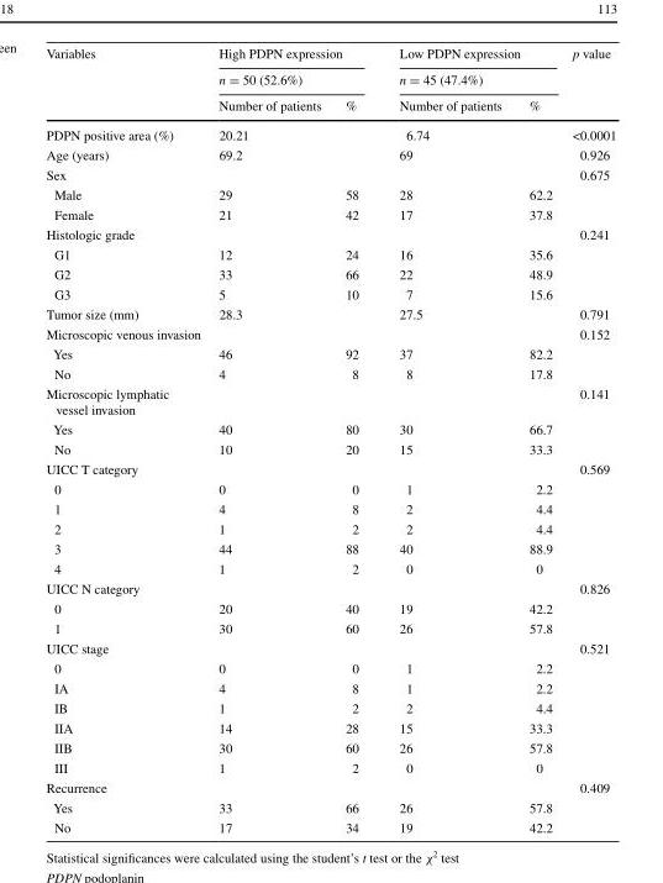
<table><thead><tr><td rowspan="3">Variables</td><td rowspan="2" colspan="2">High PDPN expression n = 50 (52.6%)</td><td rowspan="2" colspan="2">Low PDPN expression n = 45 (47.4%)</td><td rowspan="3">p value</td></tr><tr></tr><tr><td>Number of patients</td><td>%</td><td>Number of patients</td><td>%</td></tr></thead><tbody><tr><td>PDPN positive area (%)</td><td>20.21</td><td></td><td>6.74</td><td></td><td>&lt;0.0001</td></tr><tr><td>Age (years)</td><td>69.2</td><td></td><td>69</td><td></td><td>0.926</td></tr><tr><td>Sex</td><td></td><td></td><td></td><td></td><td>0.675</td></tr><tr><td>Male</td><td>29</td><td>58</td><td>28</td><td>62.2</td><td></td></tr><tr><td>Female</td><td>21</td><td>42</td><td>17</td><td>37.8</td><td></td></tr><tr><td>Histologic grade</td><td></td><td></td><td></td><td></td><td>0.241</td></tr><tr><td>G1</td><td>12</td><td>24</td><td>16</td><td>35.6</td><td></td></tr><tr><td>G2</td><td>33</td><td>66</td><td>22</td><td>48.9</td><td></td></tr><tr><td>G3</td><td>5</td><td>10</td><td>7</td><td>15.6</td><td></td></tr><tr><td>Tumor size (mm)</td><td>28.3</td><td></td><td>27.5</td><td></td><td>0.791</td></tr><tr><td>Microscopic venous invasion</td><td></td><td></td><td></td><td></td><td>0.152</td></tr><tr><td>Yes</td><td>46</td><td>92</td><td>37</td><td>82.2</td><td></td></tr><tr><td>No</td><td>4</td><td>8</td><td>8</td><td>17.8</td><td></td></tr><tr><td>Microscopic lymphatic vessel invasion</td><td></td><td></td><td></td><td></td><td>0.141</td></tr><tr><td>Yes</td><td>40</td><td>80</td><td>30</td><td>66.7</td><td></td></tr><tr><td>No</td><td>10</td><td>20</td><td>15</td><td>33.3</td><td></td></tr><tr><td>UICC T category</td><td></td><td></td><td></td><td></td><td>0.569</td></tr><tr><td>0</td><td>0</td><td>0</td><td>1</td><td>2.2</td><td></td></tr><tr><td>1</td><td>4</td><td>8</td><td>2</td><td>4.4</td><td></td></tr><tr><td>2</td><td>1</td><td>2</td><td>2</td><td>4.4</td><td></td></tr><tr><td>3</td><td>44</td><td>88</td><td>40</td><td>88.9</td><td></td></tr><tr><td>4</td><td>1</td><td>2</td><td>0</td><td>0</td><td></td></tr><tr><td>UICC N category</td><td></td><td></td><td></td><td></td><td>0.826</td></tr><tr><td>0</td><td>20</td><td>40</td><td>19</td><td>42.2</td><td></td></tr><tr><td>1</td><td>30</td><td>60</td><td>26</td><td>57.8</td><td></td></tr><tr><td>UICC stage</td><td></td><td></td><td></td><td></td><td>0.521</td></tr><tr><td>0</td><td>0</td><td>0</td><td>1</td><td>2.2</td><td></td></tr><tr><td>IA</td><td>4</td><td>8</td><td>1</td><td>2.2</td><td></td></tr><tr><td>IB</td><td>1</td><td>2</td><td>2</td><td>4.4</td><td></td></tr><tr><td>IIA</td><td>14</td><td>28</td><td>15</td><td>33.3</td><td></td></tr><tr><td>IIB</td><td>30</td><td>60</td><td>26</td><td>57.8</td><td></td></tr><tr><td>III</td><td>1</td><td>2</td><td>0</td><td>0</td><td></td></tr><tr><td>Recurrence</td><td></td><td></td><td></td><td></td><td>0.409</td></tr><tr><td>Yes</td><td>33</td><td>66</td><td>26</td><td>57.8</td><td></td></tr><tr><td>No</td><td>17</td><td>34</td><td>19</td><td>42.2</td><td></td></tr></tbody></table>